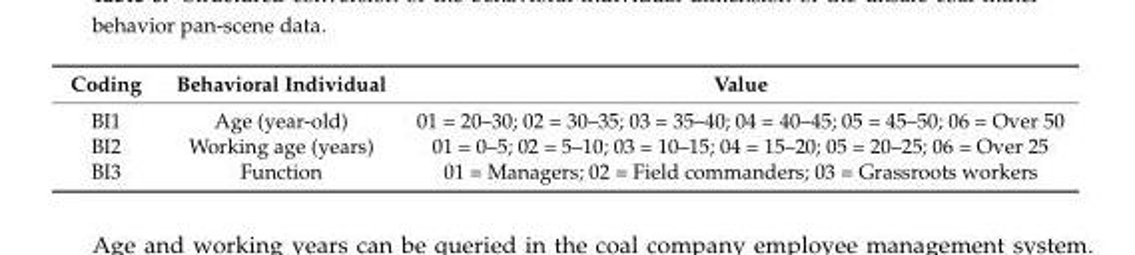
<table><thead><tr><td>Coding</td><td>Behavioral Individual</td><td>Value</td></tr></thead><tbody><tr><td>BI1</td><td>Age (year-old)</td><td>01 = 20–30; 02 = 30–35; 03 = 35–40; 04 = 40–45; 05 = 45–50; 06 = Over 50</td></tr><tr><td>BI2</td><td>Working age (years)</td><td>01 = 0–5; 02 = 5–10; 03 = 10–15; 04 = 15–20; 05 = 20–25; 06 = Over 25</td></tr><tr><td>BI3</td><td>Function</td><td>01 = Managers; 02 = Field commanders; 03 = Grassroots workers</td></tr></tbody></table>